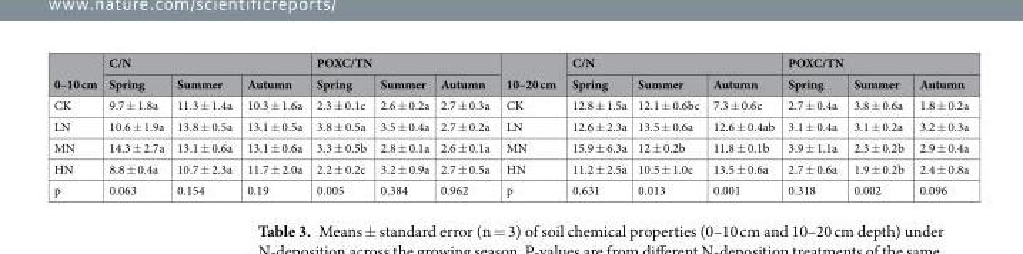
<table><thead><tr><td rowspan="2">0–10 cm</td><td colspan="3">C/N</td><td colspan="3">POXC/TN</td><td rowspan="2">10–20 cm</td><td colspan="3">C/N</td><td colspan="3">POXC/TN</td></tr><tr><td>Spring</td><td>Summer</td><td>Autumn</td><td>Spring</td><td>Summer</td><td>Autumn</td><td>Spring</td><td>Summer</td><td>Autumn</td><td>Spring</td><td>Summer</td><td>Autumn</td></tr></thead><tbody><tr><td>CK</td><td>9.7 ± 1.8a</td><td>11.3 ± 1.4a</td><td>10.3 ± 1.6a</td><td>2.3 ± 0.1c</td><td>2.6 ± 0.2a</td><td>2.7 ± 0.3a</td><td>CK</td><td>12.8 ± 1.5a</td><td>12.1 ± 0.6bc</td><td>7.3 ± 0.6c</td><td>2.7 ± 0.4a</td><td>3.8 ± 0.6a</td><td>1.8 ± 0.2a</td></tr><tr><td>LN</td><td>10.6 ± 1.9a</td><td>13.8 ± 0.5a</td><td>13.1 ± 0.5a</td><td>3.8 ± 0.5a</td><td>3.5 ± 0.4a</td><td>2.7 ± 0.2a</td><td>LN</td><td>12.6 ± 2.3a</td><td>13.5 ± 0.6a</td><td>12.6 ± 0.4ab</td><td>3.1 ± 0.4a</td><td>3.1 ± 0.2a</td><td>3.2 ± 0.3a</td></tr><tr><td>MN</td><td>14.3 ± 2.7a</td><td>13.1 ± 0.6a</td><td>13.1 ± 0.6a</td><td>3.3 ± 0.5b</td><td>2.8 ± 0.1a</td><td>2.6 ± 0.1a</td><td>MN</td><td>15.9 ± 6.3a</td><td>12 ± 0.2b</td><td>11.8 ± 0.1b</td><td>3.9 ± 1.1a</td><td>2.3 ± 0.2b</td><td>2.9 ± 0.4a</td></tr><tr><td>HN</td><td>8.8 ± 0.4a</td><td>10.7 ± 2.3a</td><td>11.7 ± 2.0a</td><td>2.2 ± 0.2c</td><td>3.2 ± 0.9a</td><td>2.7 ± 0.5a</td><td>HN</td><td>11.2 ± 2.5a</td><td>10.5 ± 1.0c</td><td>13.5 ± 0.6a</td><td>2.7 ± 0.6a</td><td>1.9 ± 0.2b</td><td>2.4 ± 0.8a</td></tr><tr><td>p</td><td>0.063</td><td>0.154</td><td>0.19</td><td>0.005</td><td>0.384</td><td>0.962</td><td>p</td><td>0.631</td><td>0.013</td><td>0.001</td><td>0.318</td><td>0.002</td><td>0.096</td></tr></tbody></table>